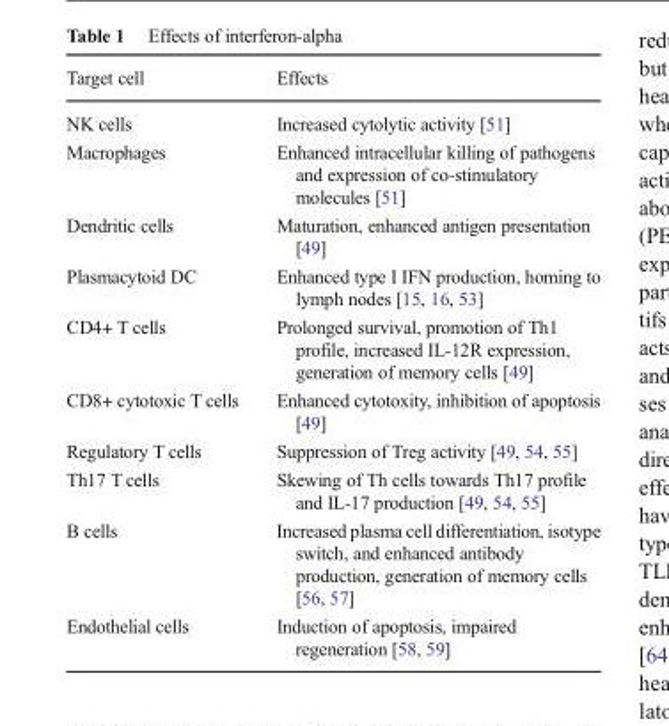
<table><thead><tr><td>Target cell</td><td>Effects</td></tr></thead><tbody><tr><td>NK cells</td><td>Increased cytolytic activity [51]</td></tr><tr><td>Macrophages</td><td>Enhanced intracellular killing of pathogens and expression of co-stimulatory molecules [51]</td></tr><tr><td>Dendritic cells</td><td>Maturation, enhanced antigen presentation [49]</td></tr><tr><td>Plasmacytoid DC</td><td>Enhanced type I IFN production, homing to lymph nodes [15, 16, 53]</td></tr><tr><td>CD4+ T cells</td><td>Prolonged survival, promotion of Th1 profile, increased IL-12R expression, generation of memory cells [49]</td></tr><tr><td>CD8+ cytotoxic T cells</td><td>Enhanced cytotoxity, inhibition of apoptosis [49]</td></tr><tr><td>Regulatory T cells</td><td>Suppression of Treg activity [49, 54, 55]</td></tr><tr><td>Th17 T cells</td><td>Skewing of Th cells towards Th17 profile and IL-17 production [49, 54, 55]</td></tr><tr><td>B cells</td><td>Increased plasma cell differentiation, isotype switch, and enhanced antibody production, generation of memory cells [56, 57]</td></tr><tr><td>Endothelial cells</td><td>Induction of apoptosis, impaired regeneration [58, 59]</td></tr></tbody></table>